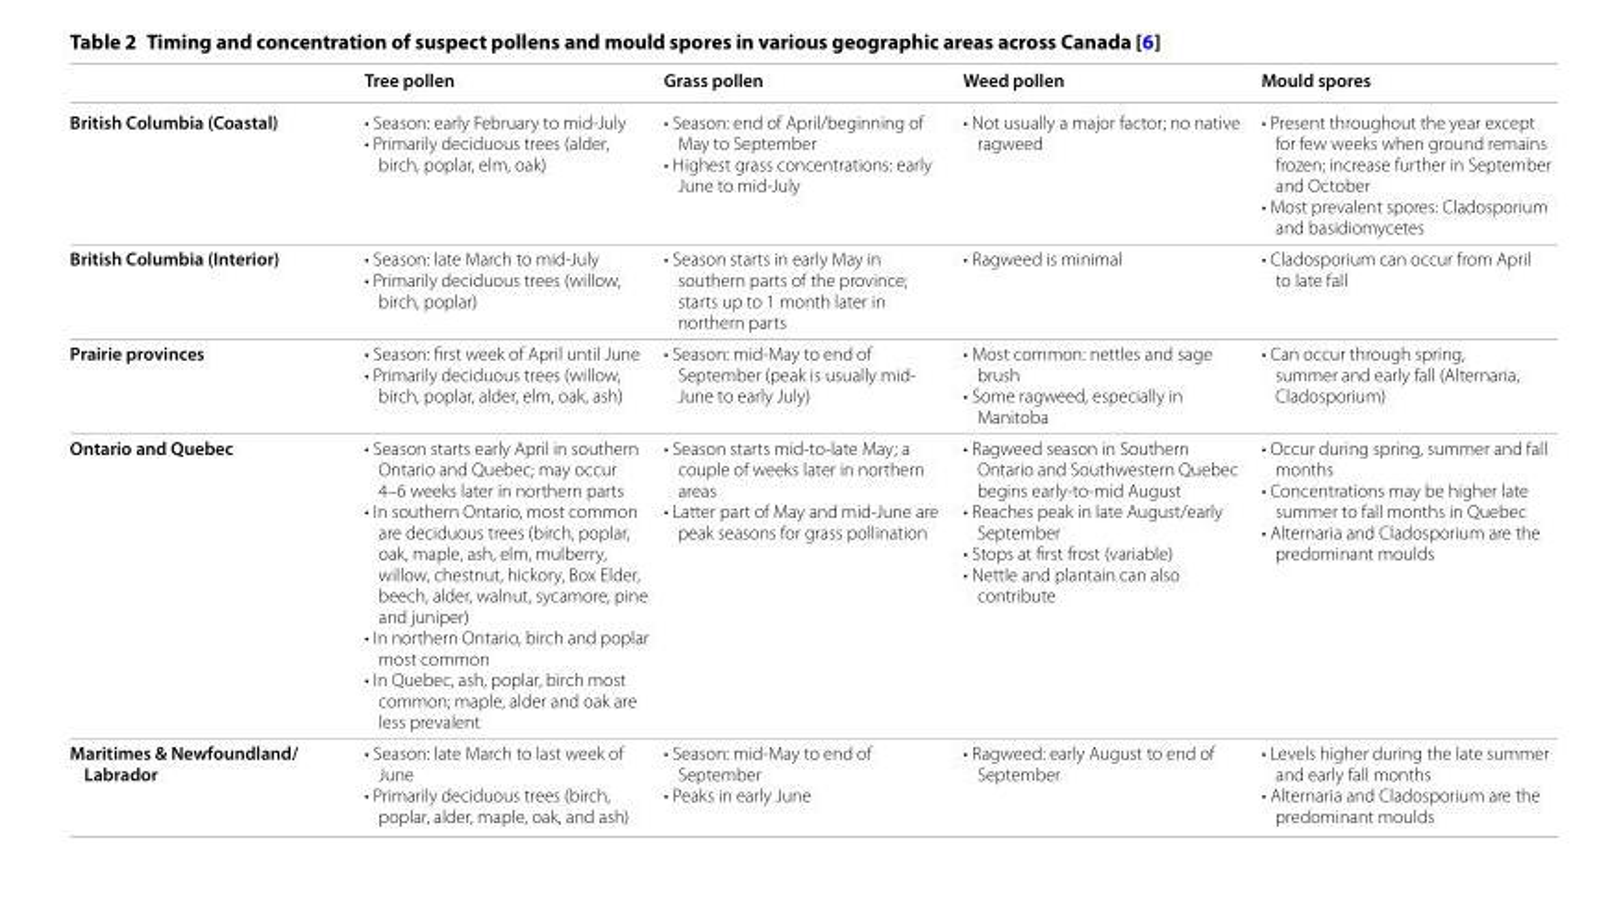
<table><thead><tr><td></td><td>Tree pollen</td><td>Grass pollen</td><td>Weed pollen</td><td>Mould spores</td></tr></thead><tbody><tr><td>British Columbia (Coastal)</td><td>• Season: early February to mid-July • Primarily deciduous trees (alder, birch, poplar, elm, oak)</td><td>• Season: end of April/beginning of May to September • Highest grass concentrations: early June to mid-July</td><td>• Not usually a major factor; no native ragweed</td><td>• Present throughout the year except for few weeks when ground remains frozen; increase further in September and October • Most prevalent spores: Cladosporium and basidiomycetes</td></tr><tr><td>British Columbia (Interior)</td><td>• Season: late March to mid-July • Primarily deciduous trees (willow, birch, poplar)</td><td>• Season starts in early May in southern parts of the province; starts up to 1 month later in northern parts</td><td>• Ragweed is minimal</td><td>• Cladosporium can occur from April to late fall</td></tr><tr><td>Prairie provinces</td><td>• Season: first week of April until June • Primarily deciduous trees (willow, birch, poplar, alder, elm, oak, ash)</td><td>• Season: mid-May to end of September (peak is usually mid- June to early July)</td><td>• Most common: nettles and sage brush • Some ragweed, especially in Manitoba</td><td>• Can occur through spring, summer and early fall (Alternaria, Cladosporium)</td></tr><tr><td>Ontario and Quebec</td><td>• Season starts early April in southern Ontario and Quebec; may occur 4–6 weeks later in northern parts • In southern Ontario, most common are deciduous trees (birch, poplar, oak, maple, ash, elm, mulberry, willow, chestnut, hickory, Box Elder, beech, alder, walnut, sycamore, pine and juniper) • In northern Ontario, birch and poplar most common • In Quebec, ash, poplar, birch most common; maple, alder and oak are less prevalent</td><td>• Season starts mid-to-late May; a couple of weeks later in northern areas • Latter part of May and mid-June are peak seasons for grass pollination</td><td>• Ragweed season in Southern Ontario and Southwestern Quebec begins early-to-mid August • Reaches peak in late August/early September • Stops at first frost (variable) • Nettle and plantain can also contribute</td><td>• Occur during spring, summer and fall months • Concentrations may be higher late summer to fall months in Quebec • Alternaria and Cladosporium are the predominant moulds</td></tr><tr><td>Maritimes &amp; Newfoundland/ Labrador</td><td>• Season: late March to last week of June • Primarily deciduous trees (birch, poplar, alder, maple, oak, and ash)</td><td>• Season: mid-May to end of September • Peaks in early June</td><td>• Ragweed: early August to end of September</td><td>• Levels higher during the late summer and early fall months • Alternaria and Cladosporium are the predominant moulds</td></tr></tbody></table>